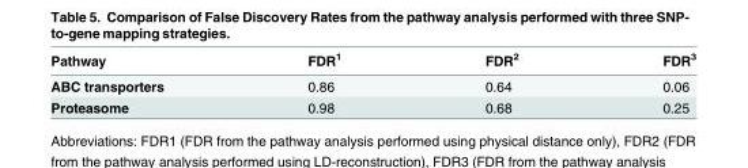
<table><thead><tr><td>Pathway</td><td>FDR<sup>1</sup></td><td>FDR<sup>2</sup></td><td>FDR<sup>3</sup></td></tr></thead><tbody><tr><td>ABC transporters</td><td>0.86</td><td>0.64</td><td>0.06</td></tr><tr><td>Proteasome</td><td>0.98</td><td>0.68</td><td>0.25</td></tr></tbody></table>